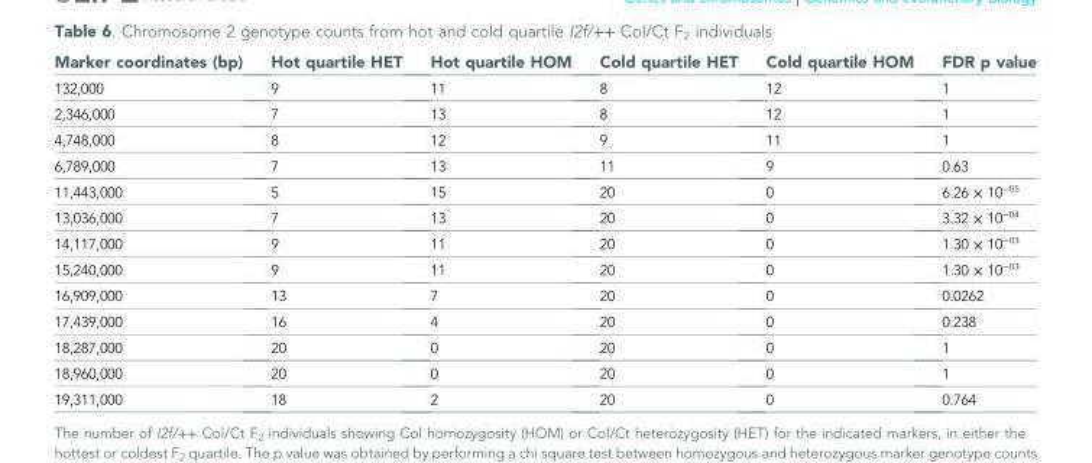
<table><thead><tr><td>Marker coordinates (bp)</td><td>Hot quartile HET</td><td>Hot quartile HOM</td><td>Cold quartile HET</td><td>Cold quartile HOM</td><td>FDR p value</td></tr></thead><tbody><tr><td>132,000</td><td>9</td><td>11</td><td>8</td><td>12</td><td>1</td></tr><tr><td>2,346,000</td><td>7</td><td>13</td><td>8</td><td>12</td><td>1</td></tr><tr><td>4,748,000</td><td>8</td><td>12</td><td>9</td><td>11</td><td>1</td></tr><tr><td>6,789,000</td><td>7</td><td>13</td><td>11</td><td>9</td><td>0.63</td></tr><tr><td>11,443,000</td><td>5</td><td>15</td><td>20</td><td>0</td><td>6.26 × 10<sup>−05</sup></td></tr><tr><td>13,036,000</td><td>7</td><td>13</td><td>20</td><td>0</td><td>3.32 × 10<sup>−04</sup></td></tr><tr><td>14,117,000</td><td>9</td><td>11</td><td>20</td><td>0</td><td>1.30 × 10<sup>−03</sup></td></tr><tr><td>15,240,000</td><td>9</td><td>11</td><td>20</td><td>0</td><td>1.30 × 10<sup>−03</sup></td></tr><tr><td>16,909,000</td><td>13</td><td>7</td><td>20</td><td>0</td><td>0.0262</td></tr><tr><td>17,439,000</td><td>16</td><td>4</td><td>20</td><td>0</td><td>0.238</td></tr><tr><td>18,287,000</td><td>20</td><td>0</td><td>20</td><td>0</td><td>1</td></tr><tr><td>18,960,000</td><td>20</td><td>0</td><td>20</td><td>0</td><td>1</td></tr><tr><td>19,311,000</td><td>18</td><td>2</td><td>20</td><td>0</td><td>0.764</td></tr></tbody></table>